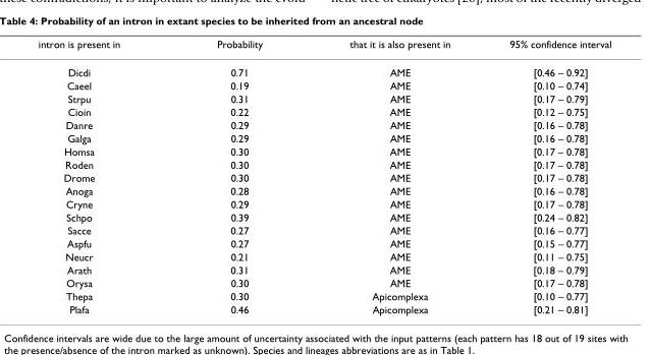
<table><thead><tr><td>intron is present in</td><td>Probability</td><td>that it is also present in</td><td>95% confidence interval</td></tr></thead><tbody><tr><td>Dicdi</td><td>0.71</td><td>AME</td><td>[0.46 – 0.92]</td></tr><tr><td>Caeel</td><td>0.19</td><td>AME</td><td>[0.10 – 0.74]</td></tr><tr><td>Strpu</td><td>0.31</td><td>AME</td><td>[0.17 – 0.79]</td></tr><tr><td>Cioin</td><td>0.22</td><td>AME</td><td>[0.12 – 0.75]</td></tr><tr><td>Danre</td><td>0.29</td><td>AME</td><td>[0.16 – 0.78]</td></tr><tr><td>Galga</td><td>0.29</td><td>AME</td><td>[0.16 – 0.78]</td></tr><tr><td>Homsa</td><td>0.30</td><td>AME</td><td>[0.17 – 0.78]</td></tr><tr><td>Roden</td><td>0.30</td><td>AME</td><td>[0.17 – 0.78]</td></tr><tr><td>Drome</td><td>0.30</td><td>AME</td><td>[0.17 – 0.78]</td></tr><tr><td>Anoga</td><td>0.28</td><td>AME</td><td>[0.16 – 0.78]</td></tr><tr><td>Cryne</td><td>0.29</td><td>AME</td><td>[0.17 – 0.78]</td></tr><tr><td>Schpo</td><td>0.39</td><td>AME</td><td>[0.24 – 0.82]</td></tr><tr><td>Sacce</td><td>0.27</td><td>AME</td><td>[0.16 – 0.77]</td></tr><tr><td>Aspfu</td><td>0.27</td><td>AME</td><td>[0.15 – 0.77]</td></tr><tr><td>Neucr</td><td>0.21</td><td>AME</td><td>[0.11 – 0.75]</td></tr><tr><td>Arath</td><td>0.31</td><td>AME</td><td>[0.18 – 0.79]</td></tr><tr><td>Orysa</td><td>0.30</td><td>AME</td><td>[0.17 – 0.78]</td></tr><tr><td>Thepa</td><td>0.30</td><td>Apicomplexa</td><td>[0.10 – 0.77]</td></tr><tr><td>Plafa</td><td>0.46</td><td>Apicomplexa</td><td>[0.21 – 0.81]</td></tr></tbody></table>